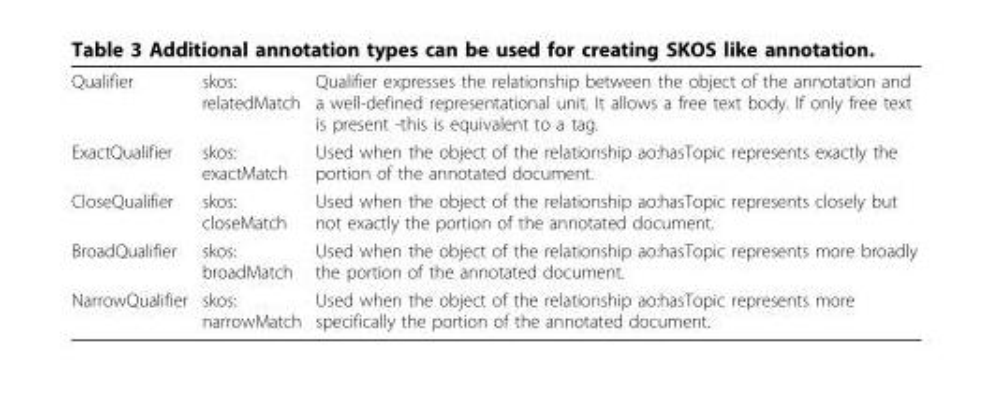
<table><tbody><tr><td>Qualifier</td><td>skos: relatedMatch</td><td>Qualifier expresses the relationship between the object of the annotation and a well-defined representational unit. It allows a free text body. If only free text is present -this is equivalent to a tag.</td></tr><tr><td>ExactQualifier</td><td>skos: exactMatch</td><td>Used when the object of the relationship ao:hasTopic represents exactly the portion of the annotated document.</td></tr><tr><td>CloseQualifier</td><td>skos: closeMatch</td><td>Used when the object of the relationship ao:hasTopic represents closely but not exactly the portion of the annotated document.</td></tr><tr><td>BroadQualifier</td><td>skos: broadMatch</td><td>Used when the object of the relationship ao:hasTopic represents more broadly the portion of the annotated document.</td></tr><tr><td>NarrowQualifier</td><td>skos: narrowMatch</td><td>Used when the object of the relationship ao:hasTopic represents more specifically the portion of the annotated document.</td></tr></tbody></table>